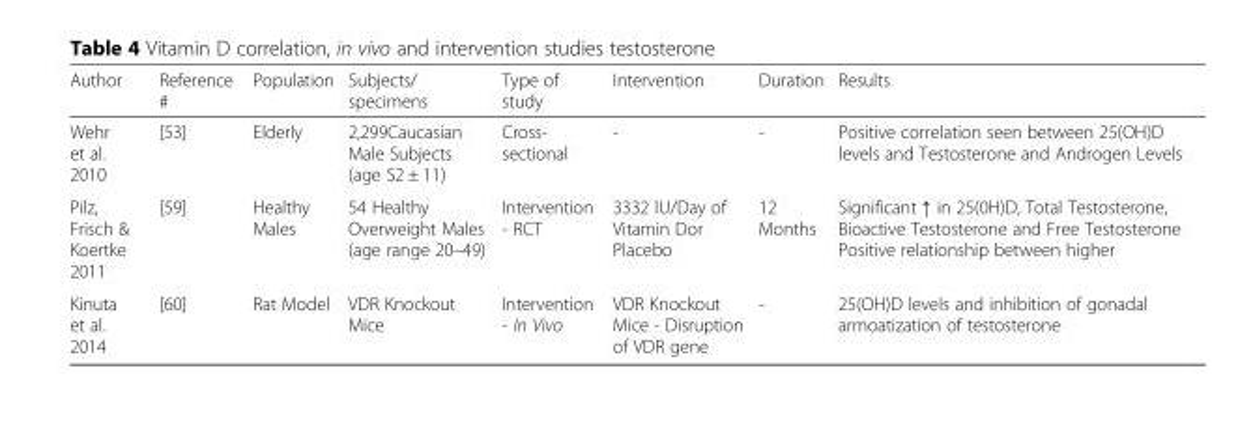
<table><thead><tr><td>Author</td><td>Reference #</td><td>Population</td><td>Subjects/ specimens</td><td>Type of study</td><td>Intervention</td><td>Duration</td><td>Results</td></tr></thead><tbody><tr><td>Wehr et al. 2010</td><td>[53]</td><td>Elderly</td><td>2,299Caucasian Male Subjects (age S2 ± 11)</td><td>Cross- sectional</td><td>-</td><td>-</td><td>Positive correlation seen between 25(OH)D levels and Testosterone and Androgen Levels</td></tr><tr><td>Pilz, Frisch &amp; Koertke 2011</td><td>[59]</td><td>Healthy Males</td><td>54 Healthy Overweight Males (age range 20–49)</td><td>Intervention - RCT</td><td>3332 lU/Day of Vitamin Dor Placebo</td><td>12 Months</td><td>Significant ↑ in 25(0H)D, Total Testosterone, Bioactive Testosterone and Free Testosterone Positive relationship between higher</td></tr><tr><td>Kinuta et al. 2014</td><td>[60]</td><td>Rat Model</td><td>VDR Knockout Mice</td><td>Intervention - In Vivo</td><td>VDR Knockout Mice - Disruption of VDR gene</td><td>-</td><td>25(OH)D levels and inhibition of gonadal armoatization of testosterone</td></tr></tbody></table>